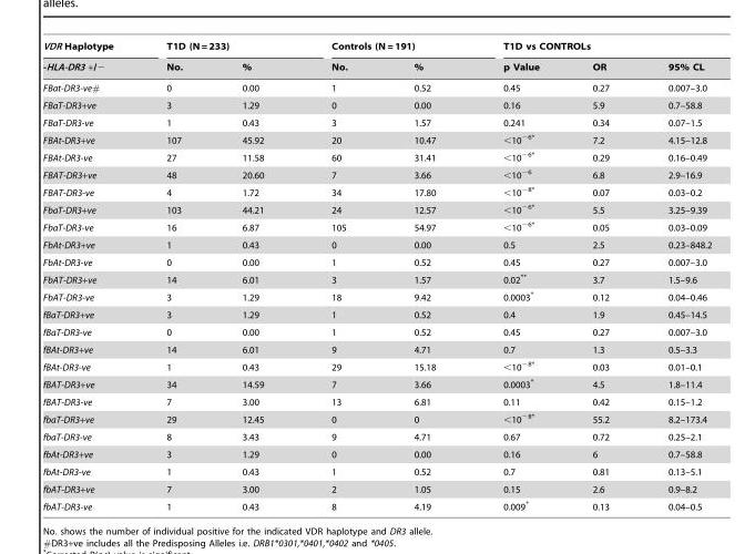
<table><thead><tr><td rowspan="2">VDR Haplotype -HLA-DR3 +/−</td><td colspan="2">T1D (N = 233)</td><td colspan="2">Controls (N = 191)</td><td colspan="3">T1D vs CONTROLs</td></tr><tr><td>No.</td><td>%</td><td>No.</td><td>%</td><td>p Value</td><td>OR</td><td>95% CL</td></tr></thead><tbody><tr><td>FBat-DR3-ve#</td><td>0</td><td>0.00</td><td>1</td><td>0.52</td><td>0.45</td><td>0.27</td><td>0.007–3.0</td></tr><tr><td>FBaT-DR3+ve</td><td>3</td><td>1.29</td><td>0</td><td>0.00</td><td>0.16</td><td>5.9</td><td>0.7–58.8</td></tr><tr><td>FBaT-DR3-ve</td><td>1</td><td>0.43</td><td>3</td><td>1.57</td><td>0.241</td><td>0.34</td><td>0.07–1.5</td></tr><tr><td>FBAt-DR3+ve</td><td>107</td><td>45.92</td><td>20</td><td>10.47</td><td>&lt;10<sup>−6</sup>*</td><td>7.2</td><td>4.15–12.8</td></tr><tr><td>FBAt-DR3-ve</td><td>27</td><td>11.58</td><td>60</td><td>31.41</td><td>&lt;10<sup>−6</sup>*</td><td>0.29</td><td>0.16–0.49</td></tr><tr><td>FBAT-DR3+ve</td><td>48</td><td>20.60</td><td>7</td><td>3.66</td><td>&lt;10<sup>−6</sup></td><td>6.8</td><td>2.9–16.9</td></tr><tr><td>FBAT-DR3-ve</td><td>4</td><td>1.72</td><td>34</td><td>17.80</td><td>&lt;10<sup>−8</sup>*</td><td>0.07</td><td>0.03–0.2</td></tr><tr><td>FbaT-DR3+ve</td><td>103</td><td>44.21</td><td>24</td><td>12.57</td><td>&lt;10<sup>−6</sup>*</td><td>5.5</td><td>3.25–9.39</td></tr><tr><td>FbaT-DR3-ve</td><td>16</td><td>6.87</td><td>105</td><td>54.97</td><td>&lt;10<sup>−6</sup>*</td><td>0.05</td><td>0.03–0.09</td></tr><tr><td>FbAt-DR3+ve</td><td>1</td><td>0.43</td><td>0</td><td>0.00</td><td>0.5</td><td>2.5</td><td>0.23–848.2</td></tr><tr><td>FbAt-DR3-ve</td><td>0</td><td>0.00</td><td>1</td><td>0.52</td><td>0.45</td><td>0.27</td><td>0.007–3.0</td></tr><tr><td>FbAT-DR3+ve</td><td>14</td><td>6.01</td><td>3</td><td>1.57</td><td>0.02**</td><td>3.7</td><td>1.5–9.6</td></tr><tr><td>FbAT-DR3-ve</td><td>3</td><td>1.29</td><td>18</td><td>9.42</td><td>0.0003*</td><td>0.12</td><td>0.04–0.46</td></tr><tr><td>fBaT-DR3+ve</td><td>3</td><td>1.29</td><td>1</td><td>0.52</td><td>0.4</td><td>1.9</td><td>0.45–14.5</td></tr><tr><td>fBaT-DR3-ve</td><td>0</td><td>0.00</td><td>1</td><td>0.52</td><td>0.45</td><td>0.27</td><td>0.007–3.0</td></tr><tr><td>fBAt-DR3+ve</td><td>14</td><td>6.01</td><td>9</td><td>4.71</td><td>0.7</td><td>1.3</td><td>0.5–3.3</td></tr><tr><td>fBAt-DR3-ve</td><td>1</td><td>0.43</td><td>29</td><td>15.18</td><td>&lt;10<sup>−8</sup>*</td><td>0.03</td><td>0.01–0.1</td></tr><tr><td>fBAT-DR3+ve</td><td>34</td><td>14.59</td><td>7</td><td>3.66</td><td>0.0003*</td><td>4.5</td><td>1.8–11.4</td></tr><tr><td>fBAT-DR3-ve</td><td>7</td><td>3.00</td><td>13</td><td>6.81</td><td>0.11</td><td>0.42</td><td>0.15–1.2</td></tr><tr><td>fbaT-DR3+ve</td><td>29</td><td>12.45</td><td>0</td><td>0</td><td>&lt;10<sup>−8</sup>*</td><td>55.2</td><td>8.2–173.4</td></tr><tr><td>fbaT-DR3-ve</td><td>8</td><td>3.43</td><td>9</td><td>4.71</td><td>0.67</td><td>0.72</td><td>0.25–2.1</td></tr><tr><td>fbAt-DR3+ve</td><td>3</td><td>1.29</td><td>0</td><td>0.00</td><td>0.16</td><td>6</td><td>0.7–58.8</td></tr><tr><td>fbAt-DR3-ve</td><td>1</td><td>0.43</td><td>1</td><td>0.52</td><td>0.7</td><td>0.81</td><td>0.13–5.1</td></tr><tr><td>fbAT-DR3+ve</td><td>7</td><td>3.00</td><td>2</td><td>1.05</td><td>0.15</td><td>2.6</td><td>0.9–8.2</td></tr><tr><td>fbAT-DR3-ve</td><td>1</td><td>0.43</td><td>8</td><td>4.19</td><td>0.009*</td><td>0.13</td><td>0.04–0.5</td></tr></tbody></table>